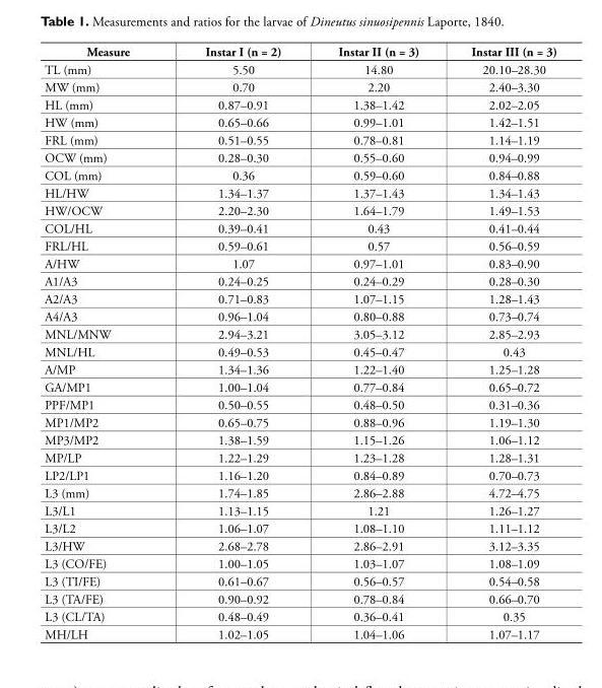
<table><thead><tr><td>Measure</td><td>Instar I (n = 2)</td><td>Instar II (n = 3)</td><td>Instar III (n = 3)</td></tr></thead><tbody><tr><td>TL (mm)</td><td>5.50</td><td>14.80</td><td>20.10–28.30</td></tr><tr><td>MW (mm)</td><td>0.70</td><td>2.20</td><td>2.40–3.30</td></tr><tr><td>HL (mm)</td><td>0.87–0.91</td><td>1.38–1.42</td><td>2.02–2.05</td></tr><tr><td>HW (mm)</td><td>0.65–0.66</td><td>0.99–1.01</td><td>1.42–1.51</td></tr><tr><td>FRL (mm)</td><td>0.51–0.55</td><td>0.78–0.81</td><td>1.14–1.19</td></tr><tr><td>OCW (mm)</td><td>0.28–0.30</td><td>0.55–0.60</td><td>0.94–0.99</td></tr><tr><td>COL (mm)</td><td>0.36</td><td>0.59–0.60</td><td>0.84–0.88</td></tr><tr><td>HL/HW</td><td>1.34–1.37</td><td>1.37–1.43</td><td>1.34–1.43</td></tr><tr><td>HW/OCW</td><td>2.20–2.30</td><td>1.64–1.79</td><td>1.49–1.53</td></tr><tr><td>COL/HL</td><td>0.39–0.41</td><td>0.43</td><td>0.41–0.44</td></tr><tr><td>FRL/HL</td><td>0.59–0.61</td><td>0.57</td><td>0.56–0.59</td></tr><tr><td>A/HW</td><td>1.07</td><td>0.97–1.01</td><td>0.83–0.90</td></tr><tr><td>A1/A3</td><td>0.24–0.25</td><td>0.24–0.29</td><td>0.28–0.30</td></tr><tr><td>A2/A3</td><td>0.71–0.83</td><td>1.07–1.15</td><td>1.28–1.43</td></tr><tr><td>A4/A3</td><td>0.96–1.04</td><td>0.80–0.88</td><td>0.73–0.74</td></tr><tr><td>MNL/MNW</td><td>2.94–3.21</td><td>3.05–3.12</td><td>2.85–2.93</td></tr><tr><td>MNL/HL</td><td>0.49–0.53</td><td>0.45–0.47</td><td>0.43</td></tr><tr><td>A/MP</td><td>1.34–1.36</td><td>1.22–1.40</td><td>1.25–1.28</td></tr><tr><td>GA/MP1</td><td>1.00–1.04</td><td>0.77–0.84</td><td>0.65–0.72</td></tr><tr><td>PPF/MP1</td><td>0.50–0.55</td><td>0.48–0.50</td><td>0.31–0.36</td></tr><tr><td>MP1/MP2</td><td>0.65–0.75</td><td>0.88–0.96</td><td>1.19–1.30</td></tr><tr><td>MP3/MP2</td><td>1.38–1.59</td><td>1.15–1.26</td><td>1.06–1.12</td></tr><tr><td>MP/LP</td><td>1.22–1.29</td><td>1.23–1.28</td><td>1.28–1.31</td></tr><tr><td>LP2/LP1</td><td>1.16–1.20</td><td>0.84–0.89</td><td>0.70–0.73</td></tr><tr><td>L3 (mm)</td><td>1.74–1.85</td><td>2.86–2.88</td><td>4.72–4.75</td></tr><tr><td>L3/L1</td><td>1.13–1.15</td><td>1.21</td><td>1.26–1.27</td></tr><tr><td>L3/L2</td><td>1.06–1.07</td><td>1.08–1.10</td><td>1.11–1.12</td></tr><tr><td>L3/HW</td><td>2.68–2.78</td><td>2.86–2.91</td><td>3.12–3.35</td></tr><tr><td>L3 (CO/FE)</td><td>1.00–1.05</td><td>1.03–1.07</td><td>1.08–1.09</td></tr><tr><td>L3 (TI/FE)</td><td>0.61–0.67</td><td>0.56–0.57</td><td>0.54–0.58</td></tr><tr><td>L3 (TA/FE)</td><td>0.90–0.92</td><td>0.78–0.84</td><td>0.66–0.70</td></tr><tr><td>L3 (CL/TA)</td><td>0.48–0.49</td><td>0.36–0.41</td><td>0.35</td></tr><tr><td>MH/LH</td><td>1.02–1.05</td><td>1.04–1.06</td><td>1.07–1.17</td></tr></tbody></table>